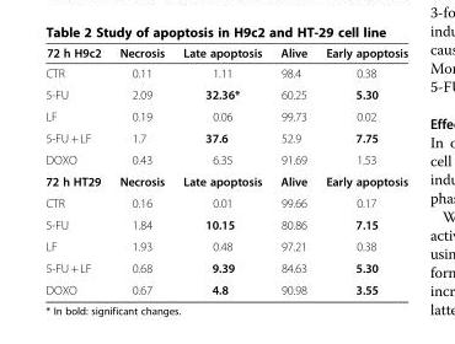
<table><thead><tr><td>72 h H9c2</td><td>Necrosis</td><td>Late apoptosis</td><td>Alive</td><td>Early apoptosis</td></tr></thead><tbody><tr><td>CTR</td><td>0.11</td><td>1.11</td><td>98.4</td><td>0.38</td></tr><tr><td>5-FU</td><td>2.09</td><td>32.36*</td><td>60.25</td><td>5.30</td></tr><tr><td>LF</td><td>0.19</td><td>0.06</td><td>99.73</td><td>0.02</td></tr><tr><td>5-FU + LF</td><td>1.7</td><td>37.6</td><td>52.9</td><td>7.75</td></tr><tr><td>DOXO</td><td>0.43</td><td>6.35</td><td>91.69</td><td>1.53</td></tr><tr><td>72 h HT29</td><td>Necrosis</td><td>Late apoptosis</td><td>Alive</td><td>Early apoptosis</td></tr><tr><td>CTR</td><td>0.16</td><td>0.01</td><td>99.66</td><td>0.17</td></tr><tr><td>5-FU</td><td>1.84</td><td>10.15</td><td>80.86</td><td>7.15</td></tr><tr><td>LF</td><td>1.93</td><td>0.48</td><td>97.21</td><td>0.38</td></tr><tr><td>5-FU + LF</td><td>0.68</td><td>9.39</td><td>84.63</td><td>5.30</td></tr><tr><td>DOXO</td><td>0.67</td><td>4.8</td><td>90.98</td><td>3.55</td></tr></tbody></table>